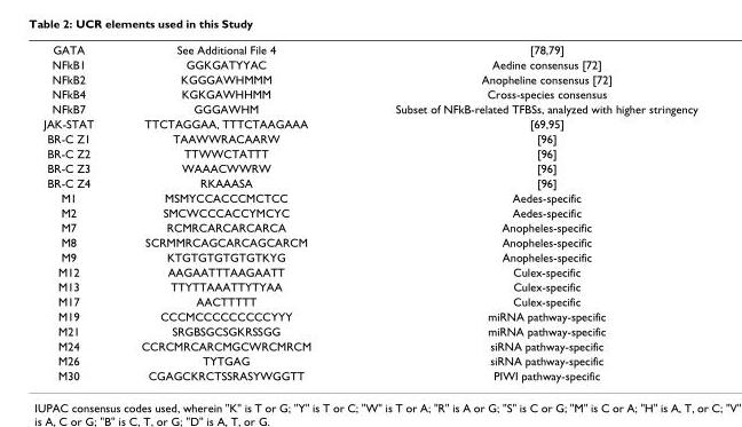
<table><tbody><tr><td>GATA</td><td>See Additional File 4</td><td>[78,79]</td></tr><tr><td>NFkB1</td><td>GGKGATYYAC</td><td>Aedine consensus [72]</td></tr><tr><td>NFkB2</td><td>KGGGAWHMMM</td><td>Anopheline consensus [72]</td></tr><tr><td>NFkB4</td><td>KGKGAWHHMM</td><td>Cross-species consensus</td></tr><tr><td>NFkB7</td><td>GGGAWHM</td><td>Subset of NFkB-related TFBSs, analyzed with higher stringency</td></tr><tr><td>JAK-STAT</td><td>TTCTAGGAA, TTTCTAAGAAA</td><td>[69,95]</td></tr><tr><td>BR-C Z1</td><td>TAAWWRACAARW</td><td>[96]</td></tr><tr><td>BR-C Z2</td><td>TTWWCTATTT</td><td>[96]</td></tr><tr><td>BR-C Z3</td><td>WAAACWWRW</td><td>[96]</td></tr><tr><td>BR-C Z4</td><td>RKAAASA</td><td>[96]</td></tr><tr><td>M1</td><td>MSMYCCACCCMCTCC</td><td>Aedes-specific</td></tr><tr><td>M2</td><td>SMCWCCCACCYMCYC</td><td>Aedes-specific</td></tr><tr><td>M7</td><td>RCMRCARCARCARCA</td><td>Anopheles-specific</td></tr><tr><td>M8</td><td>SCRMMRCAGCARCAGCARCM</td><td>Anopheles-specific</td></tr><tr><td>M9</td><td>KTGTGTGTGTGTKYG</td><td>Anopheles-specific</td></tr><tr><td>M12</td><td>AAGAATTTAAGAATT</td><td>Culex-specific</td></tr><tr><td>M13</td><td>TTYTTAAATTYTYAA</td><td>Culex-specific</td></tr><tr><td>M17</td><td>AACTTTTT</td><td>Culex-specific</td></tr><tr><td>M19</td><td>CCCMCCCCCCCCCYYY</td><td>miRNA pathway-specific</td></tr><tr><td>M21</td><td>SRGBSGCSGKRSSGG</td><td>miRNA pathway-specific</td></tr><tr><td>M24</td><td>CCRCMRCARCMGCWRCMRCM</td><td>siRNA pathway-specific</td></tr><tr><td>M26</td><td>TYTGAG</td><td>siRNA pathway-specific</td></tr><tr><td>M30</td><td>CGAGCKRCTSSRASYWGGTT</td><td>PIWI pathway-specific</td></tr></tbody></table>